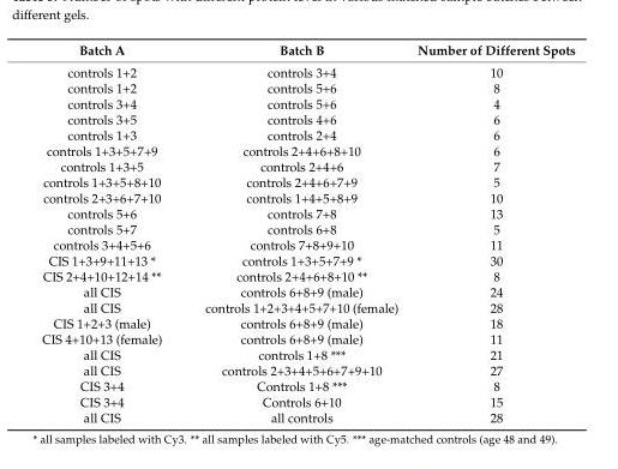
<table><thead><tr><td>Batch A</td><td>Batch B</td><td>Number of Different Spots</td></tr></thead><tbody><tr><td>controls 1+2</td><td>controls 3+4</td><td>10</td></tr><tr><td>controls 1+2</td><td>controls 5+6</td><td>8</td></tr><tr><td>controls 3+4</td><td>controls 5+6</td><td>4</td></tr><tr><td>controls 3+5</td><td>controls 4+6</td><td>6</td></tr><tr><td>controls 1+3</td><td>controls 2+4</td><td>6</td></tr><tr><td>controls 1+3+5+7+9</td><td>controls 2+4+6+8+10</td><td>6</td></tr><tr><td>controls 1+3+5</td><td>controls 2+4+6</td><td>7</td></tr><tr><td>controls 1+3+5+8+10</td><td>controls 2+4+6+7+9</td><td>5</td></tr><tr><td>controls 2+3+6+7+10</td><td>controls 1+4+5+8+9</td><td>10</td></tr><tr><td>controls 5+6</td><td>controls 7+8</td><td>13</td></tr><tr><td>controls 5+7</td><td>controls 6+8</td><td>5</td></tr><tr><td>controls 3+4+5+6</td><td>controls 7+8+9+10</td><td>11</td></tr><tr><td>CIS 1+3+9+11+13 *</td><td>controls 1+3+5+7+9 *</td><td>30</td></tr><tr><td>CIS 2+4+10+12+14 **</td><td>controls 2+4+6+8+10 **</td><td>8</td></tr><tr><td>all CIS</td><td>controls 6+8+9 (male)</td><td>24</td></tr><tr><td>all CIS</td><td>controls 1+2+3+4+5+7+10 (female)</td><td>28</td></tr><tr><td>CIS 1+2+3 (male)</td><td>controls 6+8+9 (male)</td><td>18</td></tr><tr><td>CIS 4+10+13 (female)</td><td>controls 6+8+9 (male)</td><td>11</td></tr><tr><td>all CIS</td><td>controls 1+8 ***</td><td>21</td></tr><tr><td>all CIS</td><td>controls 2+3+4+5+6+7+9+10</td><td>27</td></tr><tr><td>CIS 3+4</td><td>Controls 1+8 ***</td><td>8</td></tr><tr><td>CIS 3+4</td><td>Controls 6+10</td><td>15</td></tr><tr><td>all CIS</td><td>all controls</td><td>28</td></tr></tbody></table>